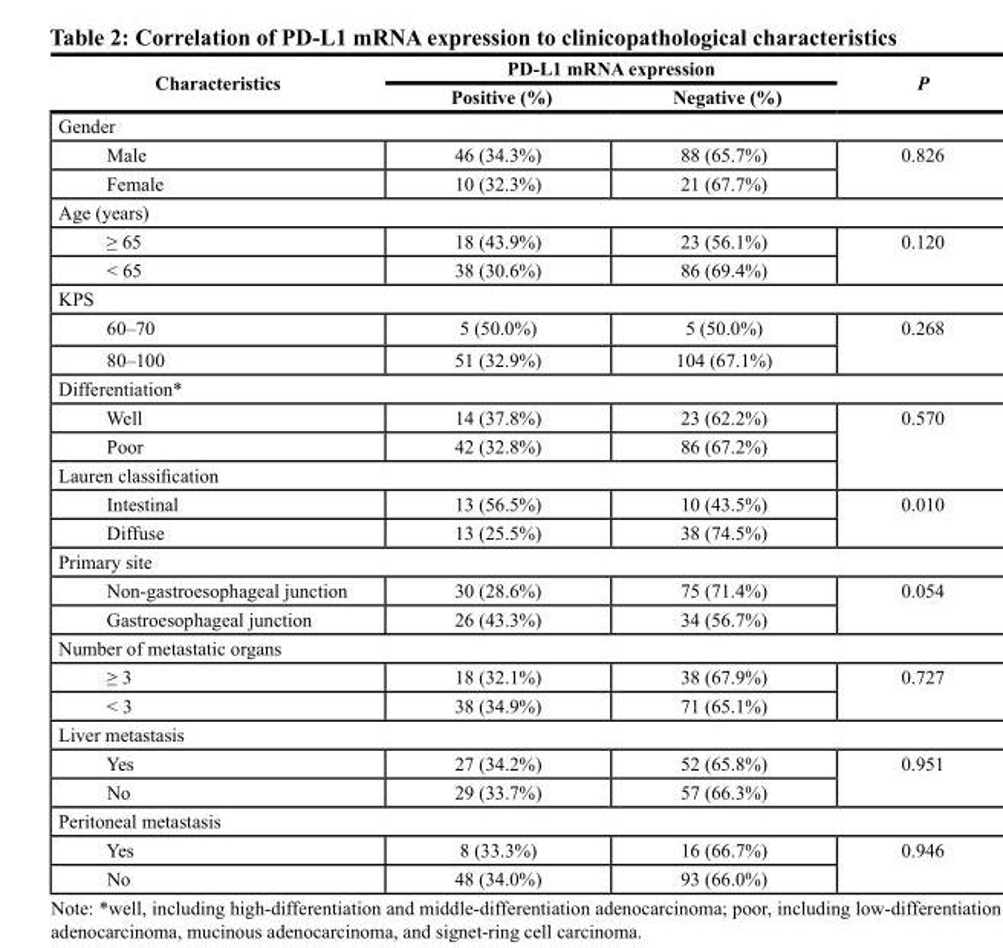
<table><thead><tr><td rowspan="2">characteristics</td><td colspan="2">Pd-l1 mrnA expression</td><td rowspan="2">P</td></tr><tr><td>Positive (%)</td><td>negative (%)</td></tr></thead><tbody><tr><td colspan="4">Gender</td></tr><tr><td>Male</td><td>46 (34.3%)</td><td>88 (65.7%)</td><td rowspan="2">0.826</td></tr><tr><td>Female</td><td>10 (32.3%)</td><td>21 (67.7%)</td></tr><tr><td colspan="4">Age (years)</td></tr><tr><td>≥ 65</td><td>18 (43.9%)</td><td>23 (56.1%)</td><td rowspan="2">0.120</td></tr><tr><td>&lt; 65</td><td>38 (30.6%)</td><td>86 (69.4%)</td></tr><tr><td colspan="4">KPS</td></tr><tr><td>60–70</td><td>5 (50.0%)</td><td>5 (50.0%)</td><td rowspan="2">0.268</td></tr><tr><td>80–100</td><td>51 (32.9%)</td><td>104 (67.1%)</td></tr><tr><td colspan="4">Differentiation*</td></tr><tr><td>Well</td><td>14 (37.8%)</td><td>23 (62.2%)</td><td rowspan="3">0.570</td></tr><tr><td>Poor</td><td>42 (32.8%)</td><td>86 (67.2%)</td></tr><tr><td colspan="3">Lauren classification</td></tr><tr><td>Intestinal</td><td>13 (56.5%)</td><td>10 (43.5%)</td><td rowspan="2">0.010</td></tr><tr><td>Diffuse</td><td>13 (25.5%)</td><td>38 (74.5%)</td></tr><tr><td colspan="4">Primary site</td></tr><tr><td>Non-gastroesophageal junction</td><td>30 (28.6%)</td><td>75 (71.4%)</td><td rowspan="2">0.054</td></tr><tr><td>Gastroesophageal junction</td><td>26 (43.3%)</td><td>34 (56.7%)</td></tr><tr><td colspan="4">Number of metastatic organs</td></tr><tr><td>≥ 3</td><td>18 (32.1%)</td><td>38 (67.9%)</td><td rowspan="2">0.727</td></tr><tr><td>&lt; 3</td><td>38 (34.9%)</td><td>71 (65.1%)</td></tr><tr><td colspan="4">Liver metastasis</td></tr><tr><td>Yes</td><td>27 (34.2%)</td><td>52 (65.8%)</td><td rowspan="2">0.951</td></tr><tr><td>No</td><td>29 (33.7%)</td><td>57 (66.3%)</td></tr><tr><td colspan="4">Peritoneal metastasis</td></tr><tr><td>Yes</td><td>8 (33.3%)</td><td>16 (66.7%)</td><td rowspan="2">0.946</td></tr><tr><td>No</td><td>48 (34.0%)</td><td>93 (66.0%)</td></tr></tbody></table>